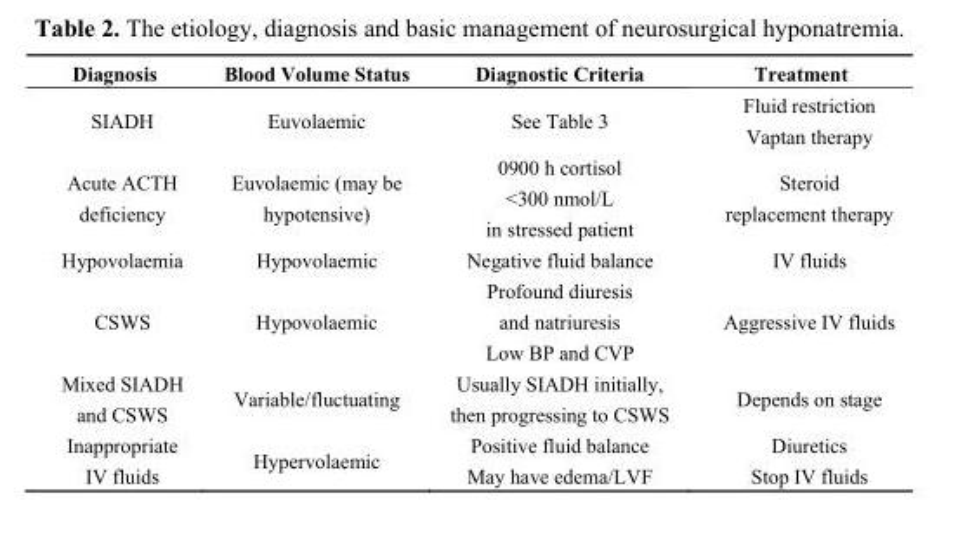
<table><thead><tr><td>Diagnosis</td><td>Blood Volume Status</td><td>Diagnostic Criteria</td><td>Treatment</td></tr></thead><tbody><tr><td>SIADH</td><td>Euvolaemic</td><td>See Table 3</td><td>Fluid restriction Vaptan therapy</td></tr><tr><td>Acute ACTH deficiency</td><td>Euvolaemic (may be hypotensive)</td><td>0900 h cortisol &lt;300 nmol/L in stressed patient</td><td>Steroid replacement therapy</td></tr><tr><td>Hypovolaemia</td><td>Hypovolaemic</td><td>Negative fluid balance</td><td>IV fluids</td></tr><tr><td>CSWS</td><td>Hypovolaemic</td><td>Profound diuresis and natriuresis Low BP and CVP</td><td>Aggressive IV fluids</td></tr><tr><td>Mixed SIADH and CSWS</td><td>Variable/fluctuating</td><td>Usually SIADH initially, then progressing to CSWS</td><td>Depends on stage</td></tr><tr><td>Inappropriate IV fluids</td><td>Hypervolaemic</td><td>Positive fluid balance May have edema/LVF</td><td>Diuretics Stop IV fluids</td></tr></tbody></table>